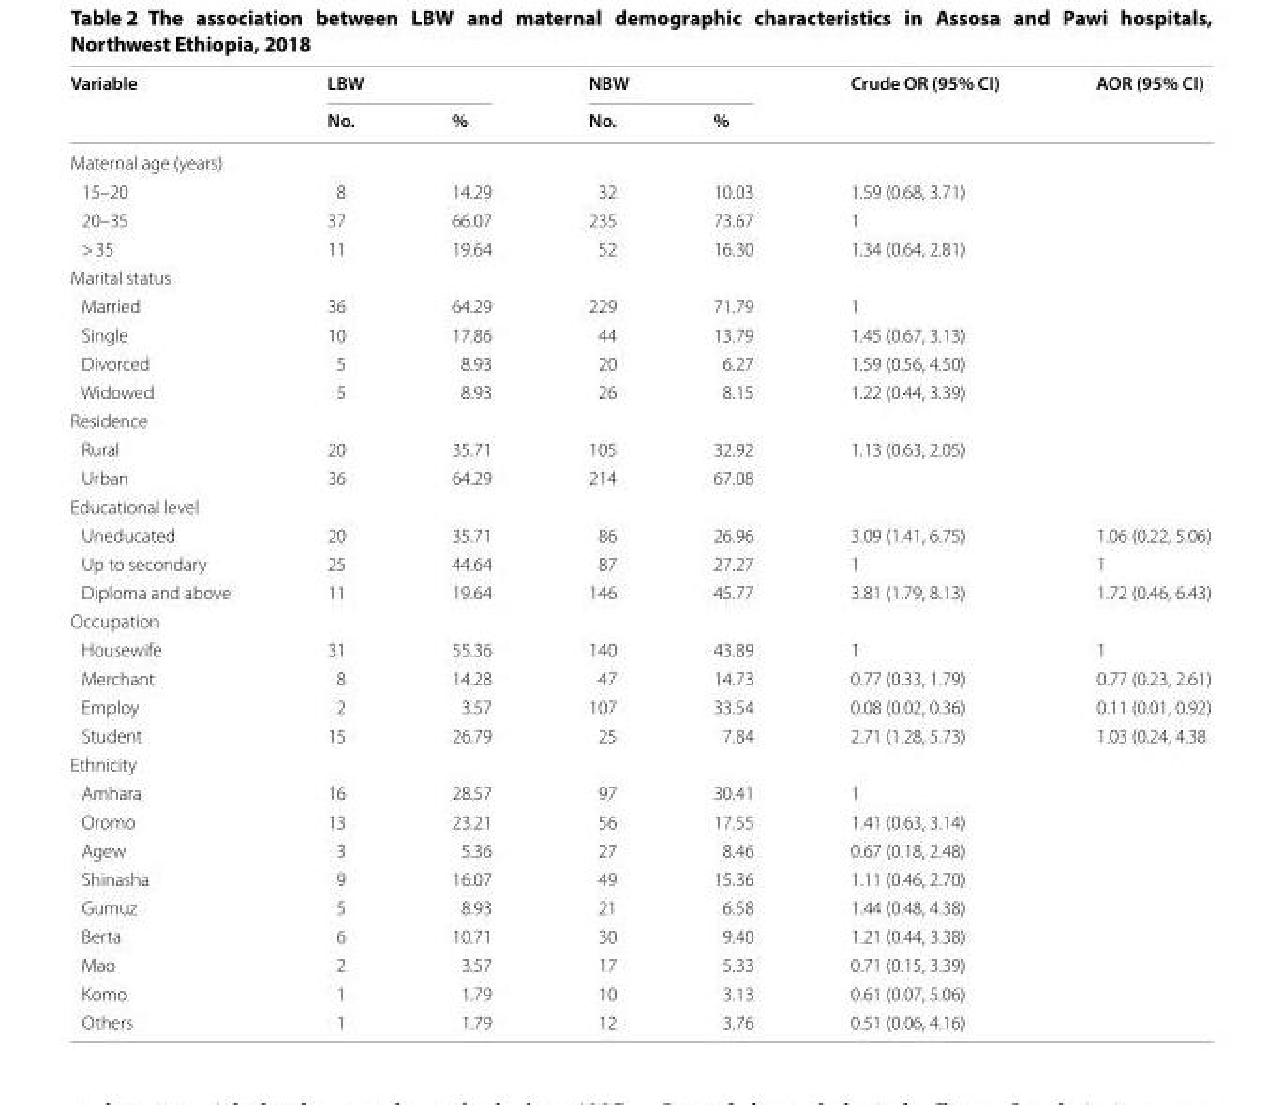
<table><thead><tr><td rowspan="2">Variable</td><td colspan="2">LBW</td><td colspan="2">NBW</td><td rowspan="2">Crude OR (95% CI)</td><td rowspan="2">AOR (95% CI)</td></tr><tr><td>No.</td><td>%</td><td>No.</td><td>%</td></tr></thead><tbody><tr><td colspan="7">Maternal age (years)</td></tr><tr><td>15–20</td><td>8</td><td>14.29</td><td>32</td><td>10.03</td><td>1.59 (0.68, 3.71)</td><td></td></tr><tr><td>20–35</td><td>37</td><td>66.07</td><td>235</td><td>73.67</td><td>1</td><td></td></tr><tr><td>&gt; 35</td><td>11</td><td>19.64</td><td>52</td><td>16.30</td><td>1.34 (0.64, 2.81)</td><td></td></tr><tr><td colspan="7">Marital status</td></tr><tr><td>Married</td><td>36</td><td>64.29</td><td>229</td><td>71.79</td><td>1</td><td></td></tr><tr><td>Single</td><td>10</td><td>17.86</td><td>44</td><td>13.79</td><td>1.45 (0.67, 3.13)</td><td></td></tr><tr><td>Divorced</td><td>5</td><td>8.93</td><td>20</td><td>6.27</td><td>1.59 (0.56, 4.50)</td><td></td></tr><tr><td>Widowed</td><td>5</td><td>8.93</td><td>26</td><td>8.15</td><td>1.22 (0.44, 3.39)</td><td></td></tr><tr><td colspan="7">Residence</td></tr><tr><td>Rural</td><td>20</td><td>35.71</td><td>105</td><td>32.92</td><td>1.13 (0.63, 2.05)</td><td></td></tr><tr><td>Urban</td><td>36</td><td>64.29</td><td>214</td><td>67.08</td><td></td><td></td></tr><tr><td colspan="7">Educational level</td></tr><tr><td>Uneducated</td><td>20</td><td>35.71</td><td>86</td><td>26.96</td><td>3.09 (1.41, 6.75)</td><td>1.06 (0.22, 5.06)</td></tr><tr><td>Up to secondary</td><td>25</td><td>44.64</td><td>87</td><td>27.27</td><td>1</td><td>1</td></tr><tr><td>Diploma and above</td><td>11</td><td>19.64</td><td>146</td><td>45.77</td><td>3.81 (1.79, 8.13)</td><td>1.72 (0.46, 6.43)</td></tr><tr><td colspan="7">Occupation</td></tr><tr><td>Housewife</td><td>31</td><td>55.36</td><td>140</td><td>43.89</td><td>1</td><td>1</td></tr><tr><td>Merchant</td><td>8</td><td>14.28</td><td>47</td><td>14.73</td><td>0.77 (0.33, 1.79)</td><td>0.77 (0.23, 2.61)</td></tr><tr><td>Employ</td><td>2</td><td>3.57</td><td>107</td><td>33.54</td><td>0.08 (0.02, 0.36)</td><td>0.11 (0.01, 0.92)</td></tr><tr><td>Student</td><td>15</td><td>26.79</td><td>25</td><td>7.84</td><td>2.71 (1.28, 5.73)</td><td>1.03 (0.24, 4.38</td></tr><tr><td colspan="7">Ethnicity</td></tr><tr><td>Amhara</td><td>16</td><td>28.57</td><td>97</td><td>30.41</td><td>1</td><td></td></tr><tr><td>Oromo</td><td>13</td><td>23.21</td><td>56</td><td>17.55</td><td>1.41 (0.63, 3.14)</td><td></td></tr><tr><td>Agew</td><td>3</td><td>5.36</td><td>27</td><td>8.46</td><td>0.67 (0.18, 2.48)</td><td></td></tr><tr><td>Shinasha</td><td>9</td><td>16.07</td><td>49</td><td>15.36</td><td>1.11 (0.46, 2.70)</td><td></td></tr><tr><td>Gumuz</td><td>5</td><td>8.93</td><td>21</td><td>6.58</td><td>1.44 (0.48, 4.38)</td><td></td></tr><tr><td>Berta</td><td>6</td><td>10.71</td><td>30</td><td>9.40</td><td>1.21 (0.44, 3.38)</td><td></td></tr><tr><td>Mao</td><td>2</td><td>3.57</td><td>17</td><td>5.33</td><td>0.71 (0.15, 3.39)</td><td></td></tr><tr><td>Komo</td><td>1</td><td>1.79</td><td>10</td><td>3.13</td><td>0.61 (0.07, 5.06)</td><td></td></tr><tr><td>Others</td><td>1</td><td>1.79</td><td>12</td><td>3.76</td><td>0.51 (0.06, 4.16)</td><td></td></tr></tbody></table>